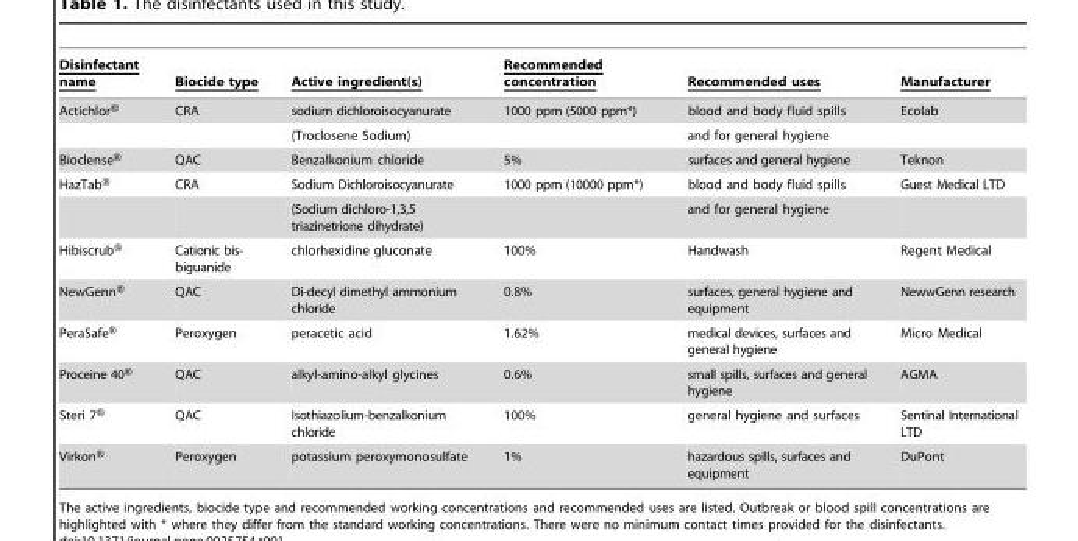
<table><thead><tr><td>Disinfectant name</td><td>Biocide type</td><td>Active ingredient(s)</td><td>Recommended concentration</td><td>Recommended uses</td><td>Manufacturer</td></tr></thead><tbody><tr><td rowspan="2">Actichlor®</td><td>CRA</td><td>sodium dichloroisocyanurate</td><td>1000 ppm (5000 ppm*)</td><td>blood and body fluid spills</td><td>Ecolab</td></tr><tr><td></td><td>(Troclosene Sodium)</td><td></td><td>and for general hygiene</td><td></td></tr><tr><td>Bioclense®</td><td>QAC</td><td>Benzalkonium chloride</td><td>5%</td><td>surfaces and general hygiene</td><td>Teknon</td></tr><tr><td rowspan="2">HazTab®</td><td>CRA</td><td>Sodium Dichloroisocyanurate</td><td>1000 ppm (10000 ppm*)</td><td>blood and body fluid spills</td><td>Guest Medical LTD</td></tr><tr><td></td><td>(Sodium dichloro-1,3,5 triazinetrione dihydrate)</td><td></td><td>and for general hygiene</td><td></td></tr><tr><td>Hibiscrub®</td><td>Cationic bis- biguanide</td><td>chlorhexidine gluconate</td><td>100%</td><td>Handwash</td><td>Regent Medical</td></tr><tr><td>NewGenn®</td><td>QAC</td><td>Di-decyl dimethyl ammonium chloride</td><td>0.8%</td><td>surfaces, general hygiene and equipment</td><td>NewwGenn research</td></tr><tr><td>PeraSafe®</td><td>Peroxygen</td><td>peracetic acid</td><td>1.62%</td><td>medical devices, surfaces and general hygiene</td><td>Micro Medical</td></tr><tr><td>Proceine 40®</td><td>QAC</td><td>alkyl-amino-alkyl glycines</td><td>0.6%</td><td>small spills, surfaces and general hygiene</td><td>AGMA</td></tr><tr><td>Steri 7®</td><td>QAC</td><td>Isothiazolium-benzalkonium chloride</td><td>100%</td><td>general hygiene and surfaces</td><td>Sentinal International LTD</td></tr><tr><td>Virkon®</td><td>Peroxygen</td><td>potassium peroxymonosulfate</td><td>1%</td><td>hazardous spills, surfaces and equipment</td><td>DuPont</td></tr></tbody></table>